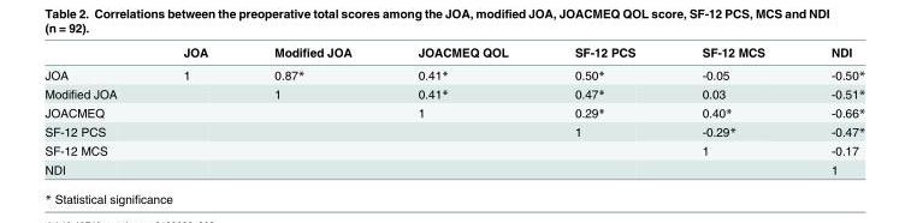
<table><thead><tr><td></td><td>JOA</td><td>Modified JOA</td><td>JOACMEQ QOL</td><td>SF-12 PCS</td><td>SF-12 MCS</td><td>NDI</td></tr></thead><tbody><tr><td>JOA</td><td>1</td><td>0.87*</td><td>0.41*</td><td>0.50*</td><td>-0.05</td><td>-0.50*</td></tr><tr><td>Modified JOA</td><td></td><td>1</td><td>0.41*</td><td>0.47*</td><td>0.03</td><td>-0.51*</td></tr><tr><td>JOACMEQ</td><td></td><td></td><td>1</td><td>0.29*</td><td>0.40*</td><td>-0.66*</td></tr><tr><td>SF-12 PCS</td><td></td><td></td><td></td><td>1</td><td>-0.29*</td><td>-0.47*</td></tr><tr><td>SF-12 MCS</td><td></td><td></td><td></td><td></td><td>1</td><td>-0.17</td></tr><tr><td>NDI</td><td></td><td></td><td></td><td></td><td></td><td>1</td></tr></tbody></table>